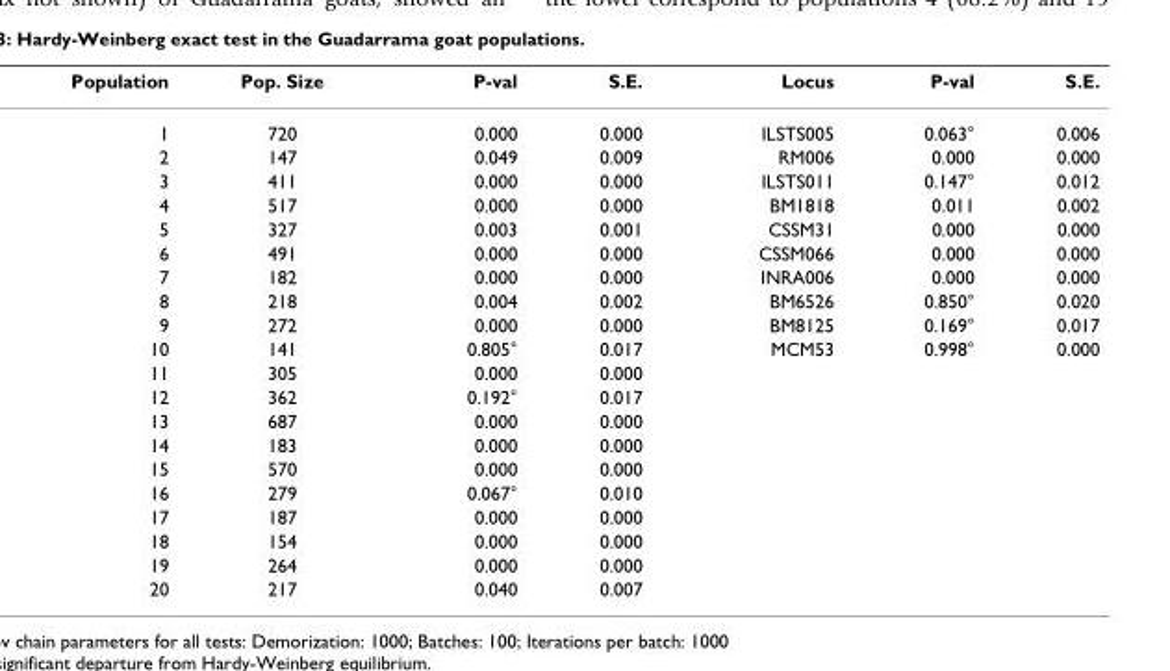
<table><thead><tr><td>Population</td><td>Pop. Size</td><td>P-val</td><td>S.E.</td><td>Locus</td><td>P-val</td><td>S.E.</td></tr></thead><tbody><tr><td>1</td><td>720</td><td>0.000</td><td>0.000</td><td>ILSTS005</td><td>0.063°</td><td>0.006</td></tr><tr><td>2</td><td>147</td><td>0.049</td><td>0.009</td><td>RM006</td><td>0.000</td><td>0.000</td></tr><tr><td>3</td><td>411</td><td>0.000</td><td>0.000</td><td>ILSTS011</td><td>0.147°</td><td>0.012</td></tr><tr><td>4</td><td>517</td><td>0.000</td><td>0.000</td><td>BM1818</td><td>0.011</td><td>0.002</td></tr><tr><td>5</td><td>327</td><td>0.003</td><td>0.001</td><td>CSSM31</td><td>0.000</td><td>0.000</td></tr><tr><td>6</td><td>491</td><td>0.000</td><td>0.000</td><td>CSSM066</td><td>0.000</td><td>0.000</td></tr><tr><td>7</td><td>182</td><td>0.000</td><td>0.000</td><td>INRA006</td><td>0.000</td><td>0.000</td></tr><tr><td>8</td><td>218</td><td>0.004</td><td>0.002</td><td>BM6526</td><td>0.850°</td><td>0.020</td></tr><tr><td>9</td><td>272</td><td>0.000</td><td>0.000</td><td>BM8125</td><td>0.169°</td><td>0.017</td></tr><tr><td>10</td><td>141</td><td>0.805°</td><td>0.017</td><td>MCM53</td><td>0.998°</td><td>0.000</td></tr><tr><td>11</td><td>305</td><td>0.000</td><td>0.000</td><td></td><td></td><td></td></tr><tr><td>12</td><td>362</td><td>0.192°</td><td>0.017</td><td></td><td></td><td></td></tr><tr><td>13</td><td>687</td><td>0.000</td><td>0.000</td><td></td><td></td><td></td></tr><tr><td>14</td><td>183</td><td>0.000</td><td>0.000</td><td></td><td></td><td></td></tr><tr><td>15</td><td>570</td><td>0.000</td><td>0.000</td><td></td><td></td><td></td></tr><tr><td>16</td><td>279</td><td>0.067°</td><td>0.010</td><td></td><td></td><td></td></tr><tr><td>17</td><td>187</td><td>0.000</td><td>0.000</td><td></td><td></td><td></td></tr><tr><td>18</td><td>154</td><td>0.000</td><td>0.000</td><td></td><td></td><td></td></tr><tr><td>19</td><td>264</td><td>0.000</td><td>0.000</td><td></td><td></td><td></td></tr><tr><td>20</td><td>217</td><td>0.040</td><td>0.007</td><td></td><td></td><td></td></tr></tbody></table>